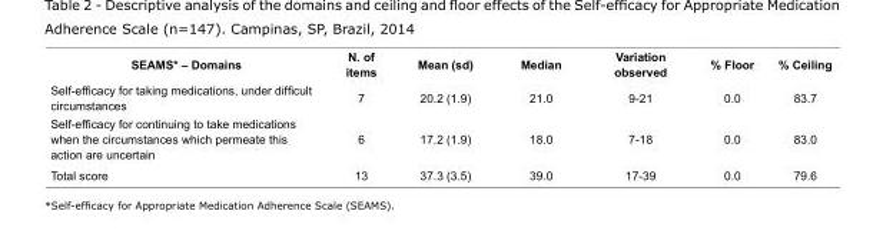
<table><tbody><tr><td>SEAMS* – Domains</td><td>N. of items</td><td>Mean (sd)</td><td>Median</td><td>Variation observed</td><td>% Floor</td><td>% Ceiling</td></tr><tr><td>Self-efficacy for taking medications, under difficult circumstances</td><td>7</td><td>20.2 (1.9)</td><td>21.0</td><td>9-21</td><td>0.0</td><td>83.7</td></tr><tr><td>Self-efficacy for continuing to take medications when the circumstances which permeate this action are uncertain</td><td>6</td><td>17.2 (1.9)</td><td>18.0</td><td>7-18</td><td>0.0</td><td>83.0</td></tr><tr><td>Total score</td><td>13</td><td>37.3 (3.5)</td><td>39.0</td><td>17-39</td><td>0.0</td><td>79.6</td></tr></tbody></table>